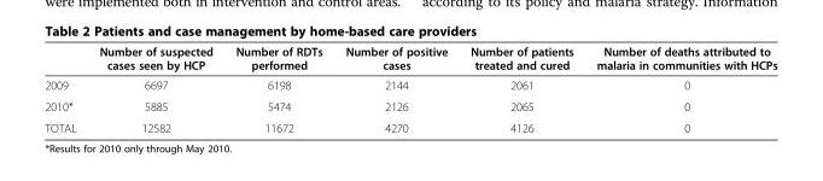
<table><thead><tr><td></td><td>Number of suspected cases seen by HCP</td><td>Number of RDTs performed</td><td>Number of positive cases</td><td>Number of patients treated and cured</td><td>Number of deaths attributed to malaria in communities with HCPs</td></tr></thead><tbody><tr><td>2009</td><td>6697</td><td>6198</td><td>2144</td><td>2061</td><td>0</td></tr><tr><td>2010*</td><td>5885</td><td>5474</td><td>2126</td><td>2065</td><td>0</td></tr><tr><td>TOTAL</td><td>12582</td><td>11672</td><td>4270</td><td>4126</td><td>0</td></tr></tbody></table>